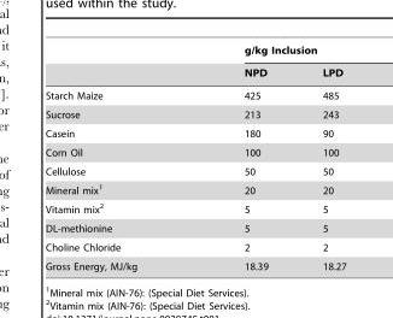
<table><thead><tr><td rowspan="2"></td><td colspan="2">g/kg Inclusion</td></tr><tr><td>NPD</td><td>LPD</td></tr></thead><tbody><tr><td>Starch Maize</td><td>425</td><td>485</td></tr><tr><td>Sucrose</td><td>213</td><td>243</td></tr><tr><td>Casein</td><td>180</td><td>90</td></tr><tr><td>Corn Oil</td><td>100</td><td>100</td></tr><tr><td>Cellulose</td><td>50</td><td>50</td></tr><tr><td>Mineral mix<sup>1</sup></td><td>20</td><td>20</td></tr><tr><td>Vitamin mix<sup>2</sup></td><td>5</td><td>5</td></tr><tr><td>DL-methionine</td><td>5</td><td>5</td></tr><tr><td>Choline Chloride</td><td>2</td><td>2</td></tr><tr><td>Gross Energy, MJ/kg</td><td>18.39</td><td>18.27</td></tr></tbody></table>